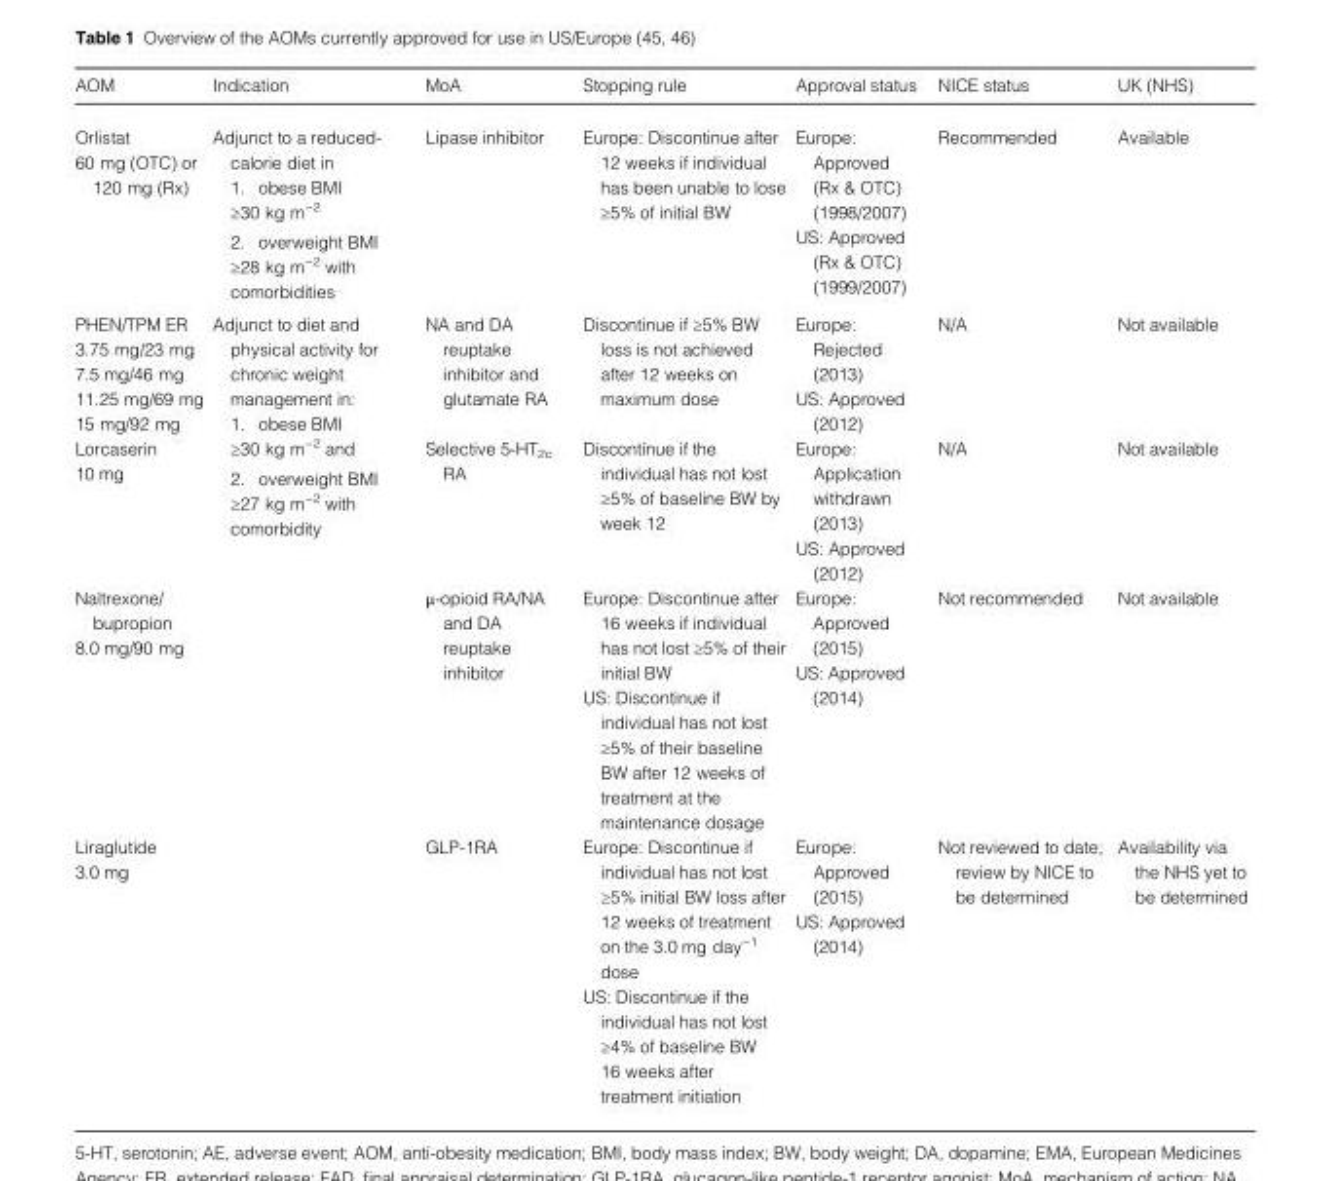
<table><thead><tr><td>AOM</td><td>Indication</td><td>MoA</td><td>Stopping rule</td><td>Approval status</td><td>NICE status</td><td>UK (NHS)</td></tr></thead><tbody><tr><td>Orlistat 60 mg (OTC) or 120 mg (Rx)</td><td>Adjunct to a reduced- calorie diet in 1. obese BMI ≥30 kg m−2 2. overweight BMI ≥28 kg m−2 with comorbidities</td><td>Lipase inhibitor</td><td>Europe: Discontinue after 12 weeks if individual has been unable to lose ≥5% of initial BW</td><td>Europe: Approved (Rx &amp; OTC) (1998/2007) US: Approved (Rx &amp; OTC) (1999/2007)</td><td>Recommended</td><td>Available</td></tr><tr><td>PHEN/TPM ER 3.75 mg/23 mg 7.5 mg/46 mg 11.25 mg/69 mg 15 mg/92 mg</td><td rowspan="4">Adjunct to diet and physical activity for chronic weight management in: 1. obese BMI ≥30 kg m−2 and 2. overweight BMI ≥27 kg m−2 with comorbidity</td><td>NA and DA reuptake inhibitor and glutamate RA</td><td>Discontinue if ≥5% BW loss is not achieved after 12 weeks on maximum dose</td><td>Europe: Rejected (2013) US: Approved (2012)</td><td>N/A</td><td>Not available</td></tr><tr><td>Lorcaserin 10 mg</td><td>Selective 5-HT<sub>2c</sub> RA</td><td>Discontinue if the individual has not lost ≥5% of baseline BW by week 12</td><td>Europe: Application withdrawn (2013) US: Approved (2012)</td><td>N/A</td><td>Not available</td></tr><tr><td>Naltrexone/ bupropion 8.0 mg/90 mg</td><td>μ-opioid RA/NA and DA reuptake inhibitor</td><td>Europe: Discontinue after 16 weeks if individual has not lost ≥5% of their initial BW US: Discontinue if individual has not lost ≥5% of their baseline BW after 12 weeks of treatment at the maintenance dosage</td><td>Europe: Approved (2015) US: Approved (2014)</td><td>Not recommended</td><td>Not available</td></tr><tr><td>Liraglutide 3.0 mg</td><td>GLP-1RA</td><td>Europe: Discontinue if individual has not lost ≥5% initial BW loss after 12 weeks of treatment on the 3.0 mg day<sup>−1</sup> dose US: Discontinue if the individual has not lost ≥4% of baseline BW 16 weeks after treatment initiation</td><td>Europe: Approved (2015) US: Approved (2014)</td><td>Not reviewed to date; review by NICE to be determined</td><td>Availability via the NHS yet to be determined</td></tr></tbody></table>